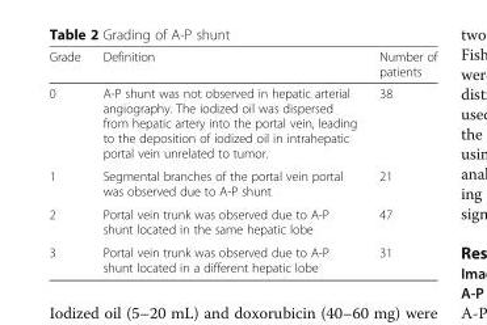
<table><thead><tr><td>Grade</td><td>Definition</td><td>Number of patients</td></tr></thead><tbody><tr><td>0</td><td>A-P shunt was not observed in hepatic arterial angiography. The iodized oil was dispersed from hepatic artery into the portal vein, leading to the deposition of iodized oil in intrahepatic portal vein unrelated to tumor.</td><td>38</td></tr><tr><td>1</td><td>Segmental branches of the portal vein portal was observed due to A-P shunt</td><td>21</td></tr><tr><td>2</td><td>Portal vein trunk was observed due to A-P shunt located in the same hepatic lobe</td><td>47</td></tr><tr><td>3</td><td>Portal vein trunk was observed due to A-P shunt located in a different hepatic lobe</td><td>31</td></tr></tbody></table>